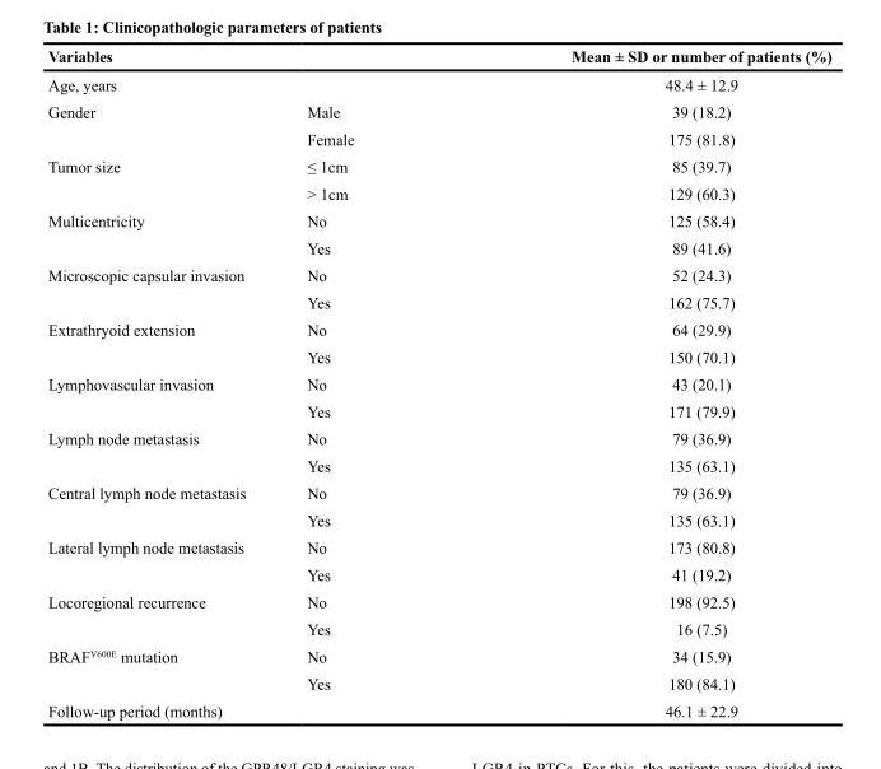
<table><thead><tr><td>Variables</td><td></td><td>Mean ± SD or number of patients (%)</td></tr></thead><tbody><tr><td>Age, years</td><td></td><td>48.4 ± 12.9</td></tr><tr><td rowspan="2">Gender</td><td>Male</td><td>39 (18.2)</td></tr><tr><td>Female</td><td>175 (81.8)</td></tr><tr><td rowspan="2">Tumor size</td><td>≤ 1cm</td><td>85 (39.7)</td></tr><tr><td>&gt; 1cm</td><td>129 (60.3)</td></tr><tr><td rowspan="2">Multicentricity</td><td>No</td><td>125 (58.4)</td></tr><tr><td>Yes</td><td>89 (41.6)</td></tr><tr><td rowspan="2">Microscopic capsular invasion</td><td>No</td><td>52 (24.3)</td></tr><tr><td>Yes</td><td>162 (75.7)</td></tr><tr><td rowspan="2">Extrathryoid extension</td><td>No</td><td>64 (29.9)</td></tr><tr><td>Yes</td><td>150 (70.1)</td></tr><tr><td rowspan="2">Lymphovascular invasion</td><td>No</td><td>43 (20.1)</td></tr><tr><td>Yes</td><td>171 (79.9)</td></tr><tr><td rowspan="2">Lymph node metastasis</td><td>No</td><td>79 (36.9)</td></tr><tr><td>Yes</td><td>135 (63.1)</td></tr><tr><td rowspan="2">Central lymph node metastasis</td><td>No</td><td>79 (36.9)</td></tr><tr><td>Yes</td><td>135 (63.1)</td></tr><tr><td rowspan="2">Lateral lymph node metastasis</td><td>No</td><td>173 (80.8)</td></tr><tr><td>Yes</td><td>41 (19.2)</td></tr><tr><td rowspan="2">Locoregional recurrence</td><td>No</td><td>198 (92.5)</td></tr><tr><td>Yes</td><td>16 (7.5)</td></tr><tr><td rowspan="2">BRAF<sup>V600E</sup> mutation</td><td>No</td><td>34 (15.9)</td></tr><tr><td>Yes</td><td>180 (84.1)</td></tr><tr><td>Follow-up period (months)</td><td></td><td>46.1 ± 22.9</td></tr></tbody></table>